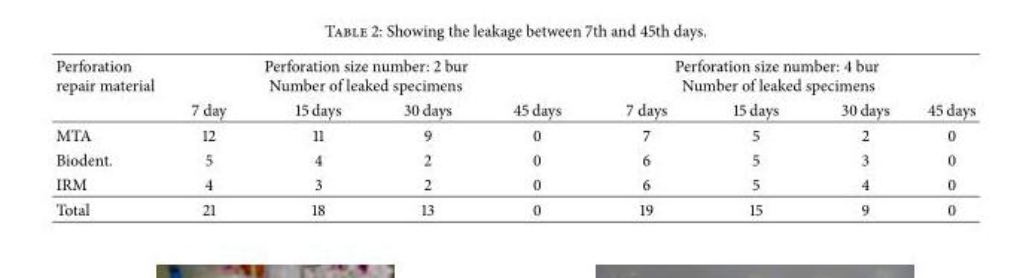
<table><thead><tr><td rowspan="2">Perforation repair material</td><td colspan="4">Perforation size number: 2 bur Number of leaked specimens</td><td colspan="4">Perforation size number: 4 bur Number of leaked specimens</td></tr><tr><td>7 day</td><td>15 days</td><td>30 days</td><td>45 days</td><td>7 days</td><td>15 days</td><td>30 days</td><td>45 days</td></tr></thead><tbody><tr><td>MTA</td><td>12</td><td>11</td><td>9</td><td>0</td><td>7</td><td>5</td><td>2</td><td>0</td></tr><tr><td>Biodent.</td><td>5</td><td>4</td><td>2</td><td>0</td><td>6</td><td>5</td><td>3</td><td>0</td></tr><tr><td>IRM</td><td>4</td><td>3</td><td>2</td><td>0</td><td>6</td><td>5</td><td>4</td><td>0</td></tr><tr><td>Total</td><td>21</td><td>18</td><td>13</td><td>0</td><td>19</td><td>15</td><td>9</td><td>0</td></tr></tbody></table>